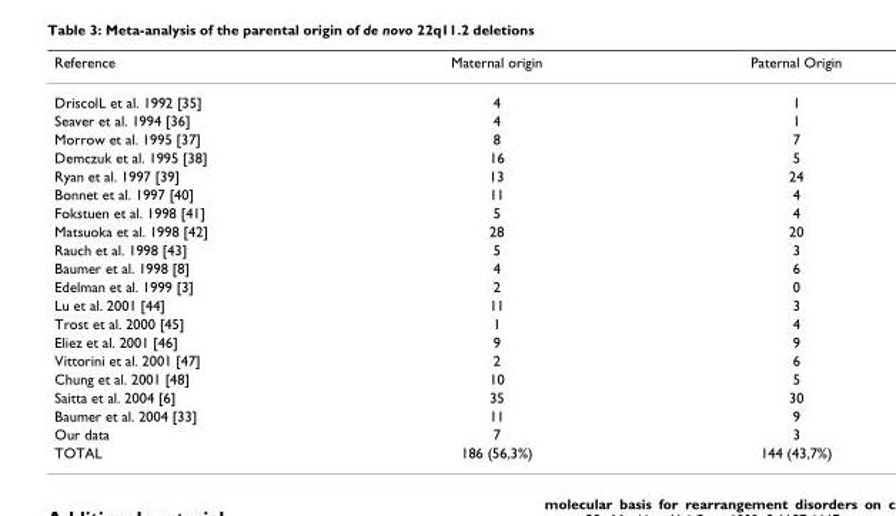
<table><thead><tr><td>Reference</td><td>Maternal origin</td><td>Paternal Origin</td></tr></thead><tbody><tr><td>DriscolL et al. 1992 [35]</td><td>4</td><td>1</td></tr><tr><td>Seaver et al. 1994 [36]</td><td>4</td><td>1</td></tr><tr><td>Morrow et al. 1995 [37]</td><td>8</td><td>7</td></tr><tr><td>Demczuk et al. 1995 [38]</td><td>16</td><td>5</td></tr><tr><td>Ryan et al. 1997 [39]</td><td>13</td><td>24</td></tr><tr><td>Bonnet et al. 1997 [40]</td><td>11</td><td>4</td></tr><tr><td>Fokstuen et al. 1998 [41]</td><td>5</td><td>4</td></tr><tr><td>Matsuoka et al. 1998 [42]</td><td>28</td><td>20</td></tr><tr><td>Rauch et al. 1998 [43]</td><td>5</td><td>3</td></tr><tr><td>Baumer et al. 1998 [8]</td><td>4</td><td>6</td></tr><tr><td>Edelman et al. 1999 [3]</td><td>2</td><td>0</td></tr><tr><td>Lu et al. 2001 [44]</td><td>11</td><td>3</td></tr><tr><td>Trost et al. 2000 [45]</td><td>1</td><td>4</td></tr><tr><td>Eliez et al. 2001 [46]</td><td>9</td><td>9</td></tr><tr><td>Vittorini et al. 2001 [47]</td><td>2</td><td>6</td></tr><tr><td>Chung et al. 2001 [48]</td><td>10</td><td>5</td></tr><tr><td>Saitta et al. 2004 [6]</td><td>35</td><td>30</td></tr><tr><td>Baumer et al. 2004 [33]</td><td>11</td><td>9</td></tr><tr><td>Our data</td><td>7</td><td>3</td></tr><tr><td>TOTAL</td><td>186 (56,3%)</td><td>144 (43,7%)</td></tr></tbody></table>